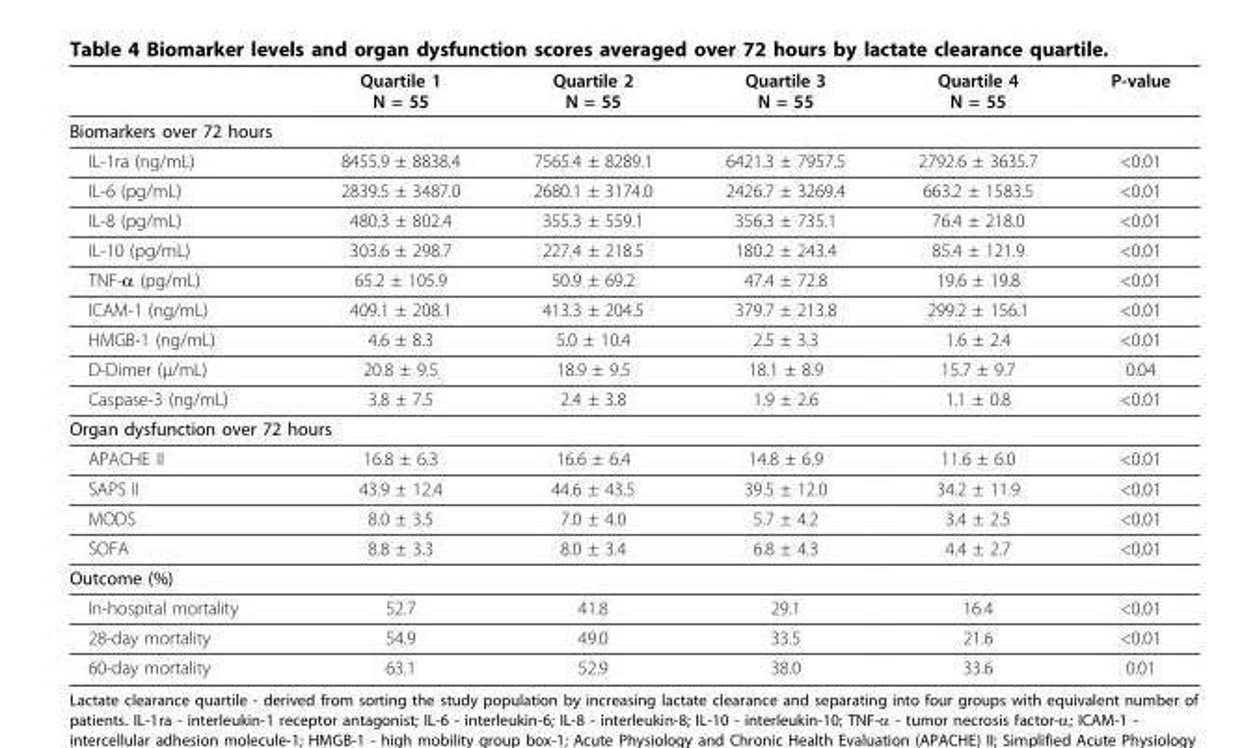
<table><thead><tr><td></td><td>Quartile 1 N = 55</td><td>Quartile 2 N = 55</td><td>Quartile 3 N = 55</td><td>Quartile 4 N = 55</td><td>P-value</td></tr></thead><tbody><tr><td colspan="6">Biomarkers over 72 hours</td></tr><tr><td>IL-1ra (ng/mL)</td><td>8455.9 ± 8838.4</td><td>7565.4 ± 8289.1</td><td>6421.3 ± 7957.5</td><td>2792.6 ± 3635.7</td><td>&lt;0.01</td></tr><tr><td>IL-6 (pg/mL)</td><td>2839.5 ± 3487.0</td><td>2680.1 ± 3174.0</td><td>2426.7 ± 3269.4</td><td>663.2 ± 1583.5</td><td>&lt;0.01</td></tr><tr><td>IL-8 (pg/mL)</td><td>480.3 ± 802.4</td><td>355.3 ± 559.1</td><td>356.3 ± 735.1</td><td>76.4 ± 218.0</td><td>&lt;0.01</td></tr><tr><td>IL-10 (pg/mL)</td><td>303.6 ± 298.7</td><td>227.4 ± 218.5</td><td>180.2 ± 243.4</td><td>85.4 ± 121.9</td><td>&lt;0.01</td></tr><tr><td>TNF-α (pg/mL)</td><td>65.2 ± 105.9</td><td>50.9 ± 69.2</td><td>47.4 ± 72.8</td><td>19.6 ± 19.8</td><td>&lt;0.01</td></tr><tr><td>ICAM-1 (ng/mL)</td><td>409.1 ± 208.1</td><td>413.3 ± 204.5</td><td>379.7 ± 213.8</td><td>299.2 ± 156.1</td><td>&lt;0.01</td></tr><tr><td>HMGB-1 (ng/mL)</td><td>4.6 ± 8.3</td><td>5.0 ± 10.4</td><td>2.5 ± 3.3</td><td>1.6 ± 2.4</td><td>&lt;0.01</td></tr><tr><td>D-Dimer (μ/mL)</td><td>20.8 ± 9.5</td><td>18.9 ± 9.5</td><td>18.1 ± 8.9</td><td>15.7 ± 9.7</td><td>0.04</td></tr><tr><td>Caspase-3 (ng/mL)</td><td>3.8 ± 7.5</td><td>2.4 ± 3.8</td><td>1.9 ± 2.6</td><td>1.1 ± 0.8</td><td>&lt;0.01</td></tr><tr><td colspan="6">Organ dysfunction over 72 hours</td></tr><tr><td>APACHE II</td><td>16.8 ± 6.3</td><td>16.6 ± 6.4</td><td>14.8 ± 6.9</td><td>11.6 ± 6.0</td><td>&lt;0.01</td></tr><tr><td>SAPS II</td><td>43.9 ± 12.4</td><td>44.6 ± 43.5</td><td>39.5 ± 12.0</td><td>34.2 ± 11.9</td><td>&lt;0.01</td></tr><tr><td>MODS</td><td>8.0 ± 3.5</td><td>7.0 ± 4.0</td><td>5.7 ± 4.2</td><td>3.4 ± 2.5</td><td>&lt;0.01</td></tr><tr><td>SOFA</td><td>8.8 ± 3.3</td><td>8.0 ± 3.4</td><td>6.8 ± 4.3</td><td>4.4 ± 2.7</td><td>&lt;0.01</td></tr><tr><td colspan="6">Outcome (%)</td></tr><tr><td>In-hospital mortality</td><td>52.7</td><td>41.8</td><td>29.1</td><td>16.4</td><td>&lt;0.01</td></tr><tr><td>28-day mortality</td><td>54.9</td><td>49.0</td><td>33.5</td><td>21.6</td><td>&lt;0.01</td></tr><tr><td>60-day mortality</td><td>63.1</td><td>52.9</td><td>38.0</td><td>33.6</td><td>0.01</td></tr></tbody></table>